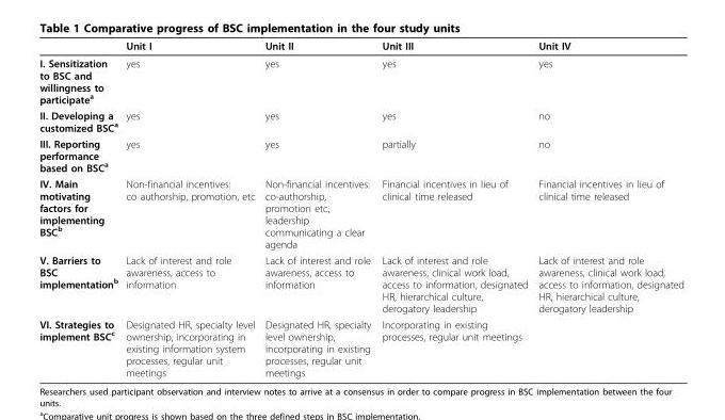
<table><thead><tr><td></td><td>Unit I</td><td>Unit II</td><td>Unit III</td><td>Unit IV</td></tr></thead><tbody><tr><td>I. Sensitization to BSC and willingness to participate<sup>a</sup></td><td>yes</td><td>yes</td><td>yes</td><td>yes</td></tr><tr><td>II. Developing a customized BSC<sup>a</sup></td><td>yes</td><td>yes</td><td>yes</td><td>no</td></tr><tr><td>III. Reporting performance based on BSC<sup>a</sup></td><td>yes</td><td>yes</td><td>partially</td><td>no</td></tr><tr><td>IV. Main motivating factors for implementing BSC<sup>b</sup></td><td>Non-financial incentives: co authorship, promotion, etc</td><td>Non-financial incentives: co-authorship, promotion etc, leadership communicating a clear agenda</td><td>Financial incentives in lieu of clinical time released</td><td>Financial incentives in lieu of clinical time released</td></tr><tr><td>V. Barriers to BSC implementation<sup>b</sup></td><td>Lack of interest and role awareness, access to information</td><td>Lack of interest and role awareness, access to information</td><td>Lack of interest and role awareness, clinical work load, access to information, designated HR, hierarchical culture, derogatory leadership</td><td>Lack of interest and role awareness, clinical work load, access to information, designated HR, hierarchical culture, derogatory leadership</td></tr><tr><td>VI. Strategies to implement BSC<sup>c</sup></td><td>Designated HR, specialty level ownership, incorporating in existing information system processes, regular unit meetings</td><td>Designated HR, specialty level ownership, incorporating in existing processes, regular unit meetings</td><td>Incorporating in existing processes, regular unit meetings</td><td></td></tr></tbody></table>